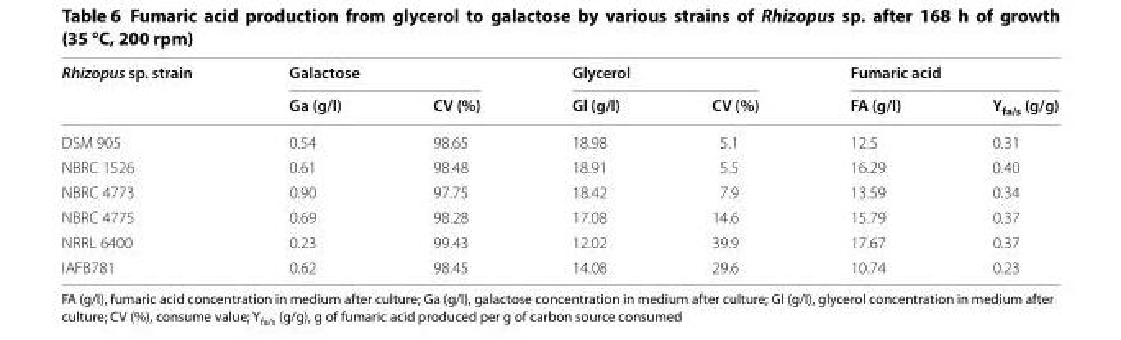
<table><thead><tr><td rowspan="2">Rhizopus sp. strain</td><td colspan="2">Galactose</td><td colspan="2">Glycerol</td><td colspan="2">Fumaric acid</td></tr><tr><td>Ga (g/l)</td><td>CV (%)</td><td>Gl (g/l)</td><td>CV (%)</td><td>FA (g/l)</td><td>Y<sub>fa/s</sub> (g/g)</td></tr></thead><tbody><tr><td>DSM 905</td><td>0.54</td><td>98.65</td><td>18.98</td><td>5.1</td><td>12.5</td><td>0.31</td></tr><tr><td>NBRC 1526</td><td>0.61</td><td>98.48</td><td>18.91</td><td>5.5</td><td>16.29</td><td>0.40</td></tr><tr><td>NBRC 4773</td><td>0.90</td><td>97.75</td><td>18.42</td><td>7.9</td><td>13.59</td><td>0.34</td></tr><tr><td>NBRC 4775</td><td>0.69</td><td>98.28</td><td>17.08</td><td>14.6</td><td>15.79</td><td>0.37</td></tr><tr><td>NRRL 6400</td><td>0.23</td><td>99.43</td><td>12.02</td><td>39.9</td><td>17.67</td><td>0.37</td></tr><tr><td>IAFB781</td><td>0.62</td><td>98.45</td><td>14.08</td><td>29.6</td><td>10.74</td><td>0.23</td></tr></tbody></table>